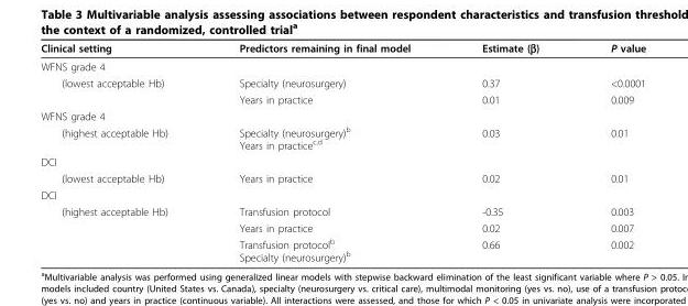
<table><thead><tr><td>Clinical setting</td><td>Predictors remaining in final model</td><td>Estimate (β)</td><td>P value</td></tr></thead><tbody><tr><td colspan="4">WFNS grade 4</td></tr><tr><td rowspan="2">(lowest acceptable Hb)</td><td>Specialty (neurosurgery)</td><td>0.37</td><td>&lt;0.0001</td></tr><tr><td>Years in practice</td><td>0.01</td><td>0.009</td></tr><tr><td colspan="4">WFNS grade 4</td></tr><tr><td>(highest acceptable Hb)</td><td>Specialty (neurosurgery)<sup>b</sup> Years in practice<sup>c,d</sup></td><td>0.03</td><td>0.01</td></tr><tr><td colspan="4">DCI</td></tr><tr><td>(lowest acceptable Hb)</td><td>Years in practice</td><td>0.02</td><td>0.01</td></tr><tr><td colspan="4">DCI</td></tr><tr><td rowspan="3">(highest acceptable Hb)</td><td>Transfusion protocol</td><td>-0.35</td><td>0.003</td></tr><tr><td>Years in practice</td><td>0.02</td><td>0.007</td></tr><tr><td>Transfusion protocol<sup>b</sup> Specialty (neurosurgery)<sup>b</sup></td><td>0.66</td><td>0.002</td></tr></tbody></table>